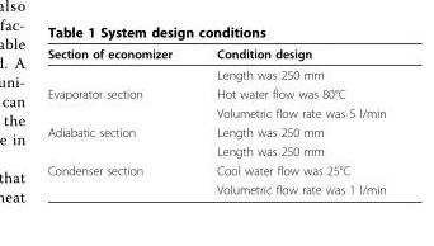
<table><thead><tr><td>Section of economizer</td><td>Condition design</td></tr></thead><tbody><tr><td></td><td>Length was 250 mm</td></tr><tr><td rowspan="2">Evaporator section</td><td>Hot water flow was 80°C</td></tr><tr><td>Volumetric flow rate was 5 l/min</td></tr><tr><td rowspan="2">Adiabatic section</td><td>Length was 250 mm</td></tr><tr><td>Length was 250 mm</td></tr><tr><td rowspan="2">Condenser section</td><td>Cool water flow was 25°C</td></tr><tr><td>Volumetric flow rate was 1 l/min</td></tr></tbody></table>